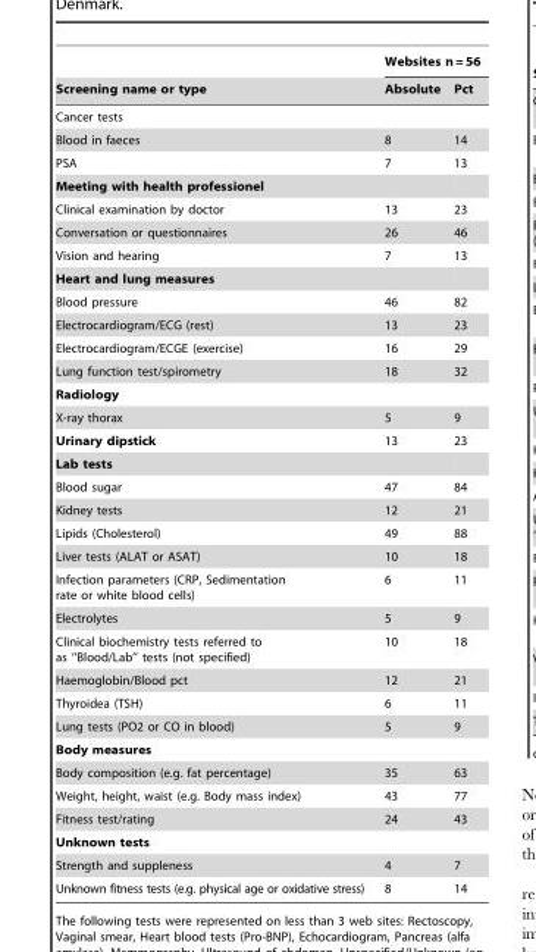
<table><thead><tr><td rowspan="2">Screening name or type</td><td colspan="2">Websites n = 56</td></tr><tr><td>Absolute</td><td>Pct</td></tr></thead><tbody><tr><td colspan="3">Cancer tests</td></tr><tr><td>Blood in faeces</td><td>8</td><td>14</td></tr><tr><td>PSA</td><td>7</td><td>13</td></tr><tr><td colspan="3">Meeting with health professionel</td></tr><tr><td>Clinical examination by doctor</td><td>13</td><td>23</td></tr><tr><td>Conversation or questionnaires</td><td>26</td><td>46</td></tr><tr><td>Vision and hearing</td><td>7</td><td>13</td></tr><tr><td colspan="3">Heart and lung measures</td></tr><tr><td>Blood pressure</td><td>46</td><td>82</td></tr><tr><td>Electrocardiogram/ECG (rest)</td><td>13</td><td>23</td></tr><tr><td>Electrocardiogram/ECGE (exercise)</td><td>16</td><td>29</td></tr><tr><td>Lung function test/spirometry</td><td>18</td><td>32</td></tr><tr><td colspan="3">Radiology</td></tr><tr><td>X-ray thorax</td><td>5</td><td>9</td></tr><tr><td>Urinary dipstick</td><td>13</td><td>23</td></tr><tr><td colspan="3">Lab tests</td></tr><tr><td>Blood sugar</td><td>47</td><td>84</td></tr><tr><td>Kidney tests</td><td>12</td><td>21</td></tr><tr><td>Lipids (Cholesterol)</td><td>49</td><td>88</td></tr><tr><td>Liver tests (ALAT or ASAT)</td><td>10</td><td>18</td></tr><tr><td>Infection parameters (CRP, Sedimentation rate or white blood cells)</td><td>6</td><td>11</td></tr><tr><td>Electrolytes</td><td>5</td><td>9</td></tr><tr><td>Clinical biochemistry tests referred to as ‘‘Blood/Lab’’ tests (not specified)</td><td>10</td><td>18</td></tr><tr><td>Haemoglobin/Blood pct</td><td>12</td><td>21</td></tr><tr><td>Thyroidea (TSH)</td><td>6</td><td>11</td></tr><tr><td>Lung tests (PO2 or CO in blood)</td><td>5</td><td>9</td></tr><tr><td colspan="3">Body measures</td></tr><tr><td>Body composition (e.g. fat percentage)</td><td>35</td><td>63</td></tr><tr><td>Weight, height, waist (e.g. Body mass index)</td><td>43</td><td>77</td></tr><tr><td>Fitness test/rating</td><td>24</td><td>43</td></tr><tr><td colspan="3">Unknown tests</td></tr><tr><td>Strength and suppleness</td><td>4</td><td>7</td></tr><tr><td>Unknown fitness tests (e.g. physical age or oxidative stress)</td><td>8</td><td>14</td></tr></tbody></table>